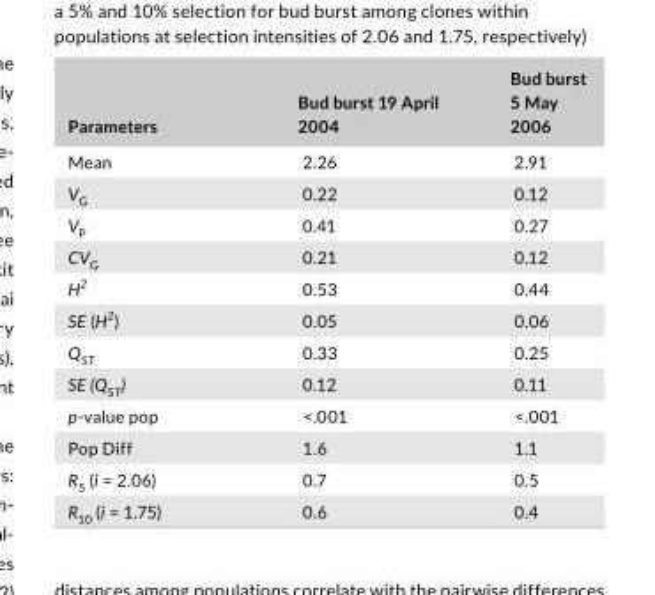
<table><thead><tr><td>Parameters</td><td>Bud burst 19 April 2004</td><td>Bud burst 5 May 2006</td></tr></thead><tbody><tr><td>Mean</td><td>2.26</td><td>2.91</td></tr><tr><td>V<sub>G</sub></td><td>0.22</td><td>0.12</td></tr><tr><td>V<sub>P</sub></td><td>0.41</td><td>0.27</td></tr><tr><td>CV<sub>G</sub></td><td>0.21</td><td>0.12</td></tr><tr><td>H<sup>2</sup></td><td>0.53</td><td>0.44</td></tr><tr><td>SE (H<sup>2</sup>)</td><td>0.05</td><td>0.06</td></tr><tr><td>Q<sub>ST</sub></td><td>0.33</td><td>0.25</td></tr><tr><td>SE (Q<sub>ST</sub>)</td><td>0.12</td><td>0.11</td></tr><tr><td>p- value pop</td><td>&lt;.001</td><td>&lt;.001</td></tr><tr><td>Pop Diff</td><td>1.6</td><td>1.1</td></tr><tr><td>R<sub>5</sub> (i = 2.06)</td><td>0.7</td><td>0.5</td></tr><tr><td>R<sub>10</sub> (i = 1.75)</td><td>0.6</td><td>0.4</td></tr></tbody></table>